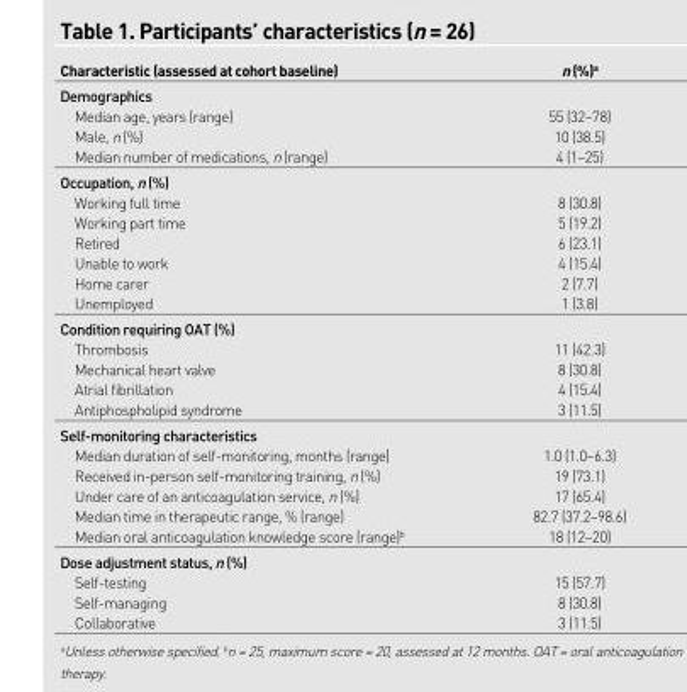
<table><thead><tr><td>Characteristic (assessed at cohort baseline)</td><td>n (%)<sup>a</sup></td></tr></thead><tbody><tr><td colspan="2">Demographics</td></tr><tr><td>Median age, years (range)</td><td>55 (32–78)</td></tr><tr><td>Male, n (%)</td><td>10 (38.5)</td></tr><tr><td>Median number of medications, n (range)</td><td>4 (1–25)</td></tr><tr><td colspan="2">Occupation, n (%)</td></tr><tr><td>Working full time</td><td>8 (30.8)</td></tr><tr><td>Working part time</td><td>5 (19.2)</td></tr><tr><td>Retired</td><td>6 (23.1)</td></tr><tr><td>Unable to work</td><td>4 (15.4)</td></tr><tr><td>Home carer</td><td>2 (7.7)</td></tr><tr><td>Unemployed</td><td>1 (3.8)</td></tr><tr><td colspan="2">Condition requiring OAT (%)</td></tr><tr><td>Thrombosis</td><td>11 (42.3)</td></tr><tr><td>Mechanical heart valve</td><td>8 (30.8)</td></tr><tr><td>Atrial fibrillation</td><td>4 (15.4)</td></tr><tr><td>Antiphospholipid syndrome</td><td>3 (11.5)</td></tr><tr><td colspan="2">Self-monitoring characteristics</td></tr><tr><td>Median duration of self-monitoring, months (range)</td><td>1.0 (1.0–6.3)</td></tr><tr><td>Received in-person self-monitoring training, n (%)</td><td>19 (73.1)</td></tr><tr><td>Under care of an anticoagulation service, n (%)</td><td>17 (65.4)</td></tr><tr><td>Median time in therapeutic range, % (range)</td><td>82.7 (37.2–98.6)</td></tr><tr><td>Median oral anticoagulation knowledge score (range)<sup>b</sup></td><td>18 (12–20)</td></tr><tr><td colspan="2">Dose adjustment status, n (%)</td></tr><tr><td>Self-testing</td><td>15 (57.7)</td></tr><tr><td>Self-managing</td><td>8 (30.8)</td></tr><tr><td>Collaborative</td><td>3 (11.5)</td></tr></tbody></table>